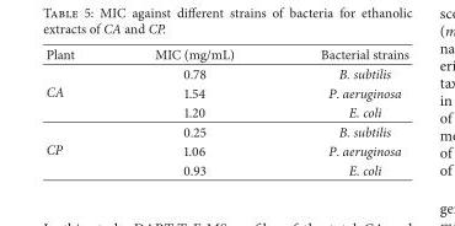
<table><thead><tr><td>Plant</td><td>MIC (mg/mL)</td><td>Bacterial strains</td></tr></thead><tbody><tr><td rowspan="3">CA</td><td>0.78</td><td>B. subtilis</td></tr><tr><td>1.54</td><td>P. aeruginosa</td></tr><tr><td>1.20</td><td>E. coli</td></tr><tr><td rowspan="3">CP</td><td>0.25</td><td>B. subtilis</td></tr><tr><td>1.06</td><td>P. aeruginosa</td></tr><tr><td>0.93</td><td>E. coli</td></tr></tbody></table>